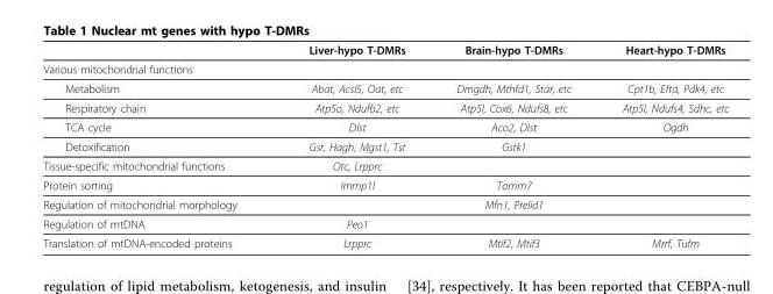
<table><thead><tr><td></td><td>Liver-hypo T-DMRs</td><td>Brain-hypo T-DMRs</td><td>Heart-hypo T-DMRs</td></tr></thead><tbody><tr><td colspan="4">Various mitochondrial functions</td></tr><tr><td>Metabolism</td><td>Abat, Acsl5, Oat, etc</td><td>Dmgdh, Mthfd1, Star, etc</td><td>Cpt1b, Efta, Pdk4, etc</td></tr><tr><td>Respiratory chain</td><td>Atp5o, Ndufb2, etc</td><td>Atp5l, Cox6, Ndufs8, etc</td><td>Atp5l, Ndufs4, Sdhc, etc</td></tr><tr><td>TCA cycle</td><td>Dlst</td><td>Aco2, Dlst</td><td>Ogdh</td></tr><tr><td>Detoxification</td><td>Gsr, Hagh, Mgst1, Tst</td><td>Gstk1</td><td></td></tr><tr><td>Tissue-specific mitochondrial functions</td><td>Otc, Lrpprc</td><td></td><td></td></tr><tr><td>Protein sorting</td><td>Immp1l</td><td>Tomm7</td><td></td></tr><tr><td>Regulation of mitochondrial morphology</td><td></td><td>Mfn1, Prelid1</td><td></td></tr><tr><td>Regulation of mtDNA</td><td>Peo1</td><td></td><td></td></tr><tr><td>Translation of mtDNA-encoded proteins</td><td>Lrpprc</td><td>Mtif2, Mtif3</td><td>Mrrf, Tufm</td></tr></tbody></table>